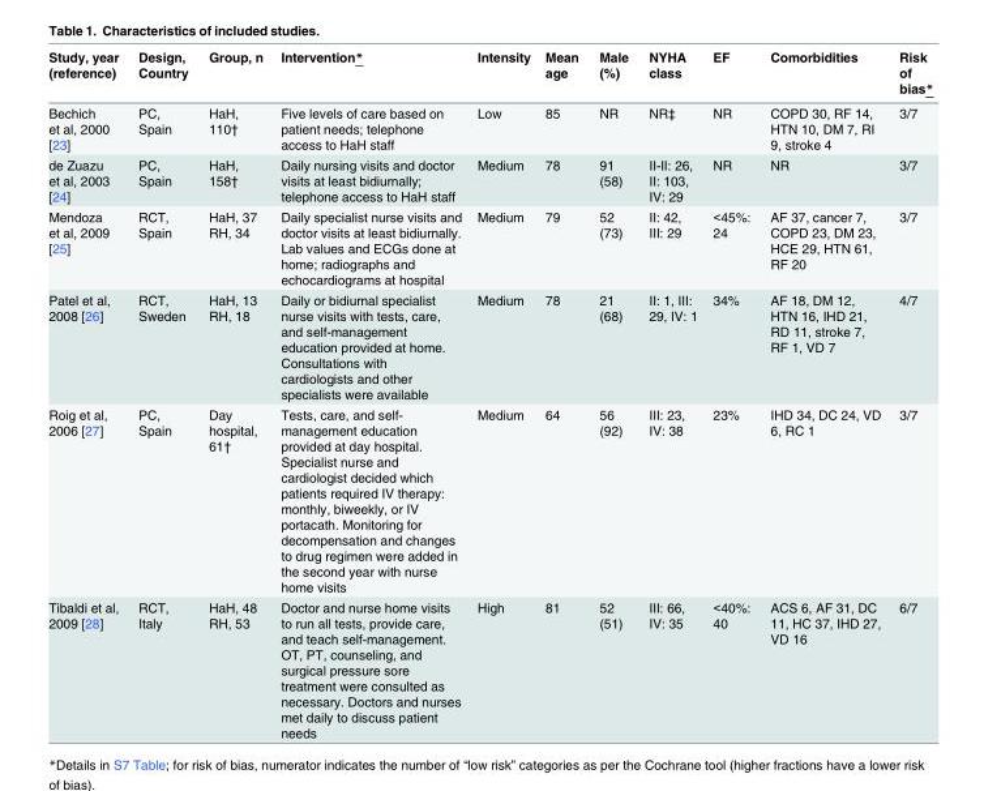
<table><thead><tr><td>Study, year (reference)</td><td>Design, Country</td><td>Group, n</td><td>Intervention*</td><td>Intensity</td><td>Mean age</td><td>Male (%)</td><td>NYHA class</td><td>EF</td><td>Comorbidities</td><td>Risk of bias*</td></tr></thead><tbody><tr><td>Bechich et al, 2000 [23]</td><td>PC, Spain</td><td>HaH, 110†</td><td>Five levels of care based on patient needs; telephone access to HaH staff</td><td>Low</td><td>85</td><td>NR</td><td>NR‡</td><td>NR</td><td>COPD 30, RF 14, HTN 10, DM 7, RI 9, stroke 4</td><td>3/7</td></tr><tr><td>de Zuazu et al, 2003 [24]</td><td>PC, Spain</td><td>HaH, 158†</td><td>Daily nursing visits and doctor visits at least bidiurnally; telephone access to HaH staff</td><td>Medium</td><td>78</td><td>91 (58)</td><td>II-II: 26, II: 103, IV: 29</td><td>NR</td><td>NR</td><td>3/7</td></tr><tr><td>Mendoza et al, 2009 [25]</td><td>RCT, Spain</td><td>HaH, 37 RH, 34</td><td>Daily specialist nurse visits and doctor visits at least bidiurnally. Lab values and ECGs done at home; radiographs and echocardiograms at hospital</td><td>Medium</td><td>79</td><td>52 (73)</td><td>II: 42, III: 29</td><td>&lt;45%: 24</td><td>AF 37, cancer 7, COPD 23, DM 23, HCE 29, HTN 61, RF 20</td><td>3/7</td></tr><tr><td>Patel et al, 2008 [26]</td><td>RCT, Sweden</td><td>HaH, 13 RH, 18</td><td>Daily or bidiurnal specialist nurse visits with tests, care, and self-management education provided at home. Consultations with cardiologists and other specialists were available</td><td>Medium</td><td>78</td><td>21 (68)</td><td>II: 1, III: 29, IV: 1</td><td>34%</td><td>AF 18, DM 12, HTN 16, IHD 21, RD 11, stroke 7, RF 1, VD 7</td><td>4/7</td></tr><tr><td>Roig et al, 2006 [27]</td><td>PC, Spain</td><td>Day hospital, 61†</td><td>Tests, care, and self- management education provided at day hospital. Specialist nurse and cardiologist decided which patients required IV therapy: monthly, biweekly, or IV portacath. Monitoring for decompensation and changes to drug regimen were added in the second year with nurse home visits</td><td>Medium</td><td>64</td><td>56 (92)</td><td>III: 23, IV: 38</td><td>23%</td><td>IHD 34, DC 24, VD 6, RC 1</td><td>3/7</td></tr><tr><td>Tibaldi et al, 2009 [28]</td><td>RCT, Italy</td><td>HaH, 48 RH, 53</td><td>Doctor and nurse home visits to run all tests, provide care, and teach self-management. OT, PT, counseling, and surgical pressure sore treatment were consulted as necessary. Doctors and nurses met daily to discuss patient needs</td><td>High</td><td>81</td><td>52 (51)</td><td>III: 66, IV: 35</td><td>&lt;40%: 40</td><td>ACS 6, AF 31, DC 11, HC 37, IHD 27, VD 16</td><td>6/7</td></tr></tbody></table>